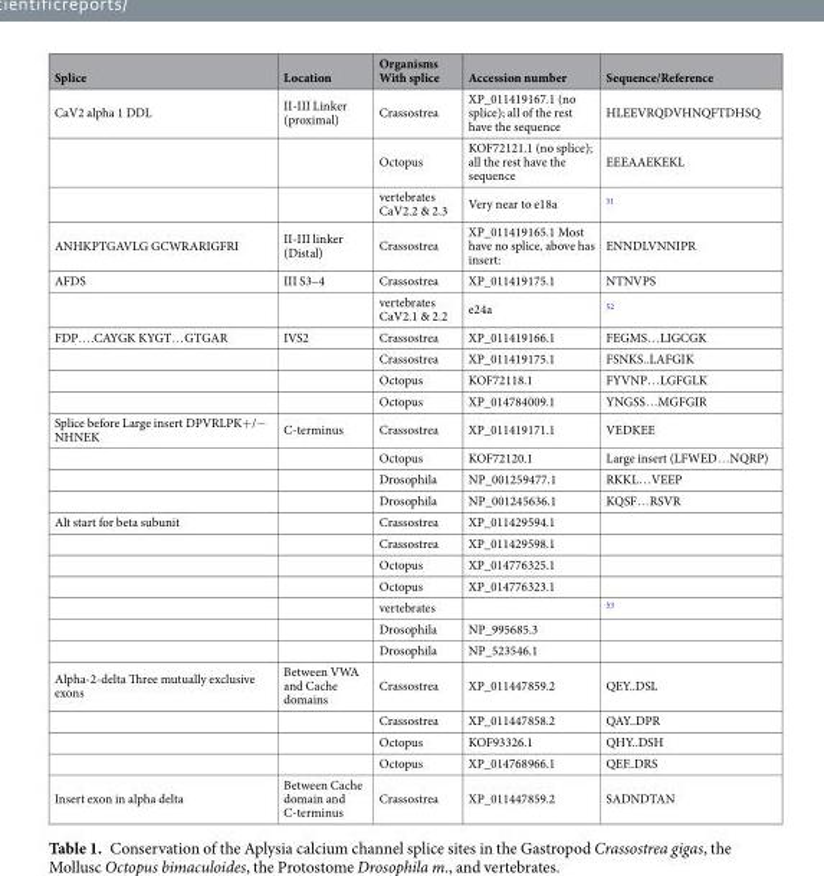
<table><thead><tr><td>Splice</td><td>Location</td><td>Organisms With splice</td><td>Accession number</td><td>Sequence/Reference</td></tr></thead><tbody><tr><td rowspan="3">CaV2 alpha 1 DDL</td><td>II-III Linker (proximal)</td><td>Crassostrea</td><td>XP_011419167.1 (no splice); all of the rest have the sequence</td><td>HLEEVRQDVHNQFTDHSQ</td></tr><tr><td></td><td>Octopus</td><td>KOF72121.1 (no splice); all the rest have the sequence</td><td>EEEAAEKEKL</td></tr><tr><td></td><td>vertebrates CaV2.2 &amp; 2.3</td><td>Very near to e18a</td><td><sup>51</sup></td></tr><tr><td>ANHKPTGAVLG GCWRARIGFRI</td><td>II-III linker (Distal)</td><td>Crassostrea</td><td>XP_011419165.1 Most have no splice, above has insert:</td><td>ENNDLVNNIPR</td></tr><tr><td rowspan="2">AFDS</td><td>III S3–4</td><td>Crassostrea</td><td>XP_011419175.1</td><td>NTNVPS</td></tr><tr><td></td><td>vertebrates CaV2.1 &amp; 2.2</td><td>e24a</td><td><sup>52</sup></td></tr><tr><td rowspan="4">FDP….CAYGK KYGT…GTGAR</td><td>IVS2</td><td>Crassostrea</td><td>XP_011419166.1</td><td>FEGMS…LIGCGK</td></tr><tr><td></td><td>Crassostrea</td><td>XP_011419175.1</td><td>FSNKS..LAFGIK</td></tr><tr><td></td><td>Octopus</td><td>KOF72118.1</td><td>FYVNP…LGFGLK</td></tr><tr><td></td><td>Octopus</td><td>XP_014784009.1</td><td>YNGSS…MGFGIR</td></tr><tr><td rowspan="4">Splice before Large insert DPVRLPK+/− NHNEK</td><td>C-terminus</td><td>Crassostrea</td><td>XP_011419171.1</td><td>VEDKEE</td></tr><tr><td></td><td>Octopus</td><td>KOF72120.1</td><td>Large insert (LFWED…NQRP)</td></tr><tr><td></td><td>Drosophila</td><td>NP_001259477.1</td><td>RKKL…VEEP</td></tr><tr><td></td><td>Drosophila</td><td>NP_001245636.1</td><td>KQSF…RSVR</td></tr><tr><td rowspan="7">Alt start for beta subunit</td><td></td><td>Crassostrea</td><td>XP_011429594.1</td><td></td></tr><tr><td></td><td>Crassostrea</td><td>XP_011429598.1</td><td></td></tr><tr><td></td><td>Octopus</td><td>XP_014776325.1</td><td></td></tr><tr><td></td><td>Octopus</td><td>XP_014776323.1</td><td></td></tr><tr><td></td><td>vertebrates</td><td></td><td><sup>53</sup></td></tr><tr><td></td><td>Drosophila</td><td>NP_995685.3</td><td></td></tr><tr><td></td><td>Drosophila</td><td>NP_523546.1</td><td></td></tr><tr><td rowspan="4">Alpha-2-delta Three mutually exclusive exons</td><td>Between VWA and Cache domains</td><td>Crassostrea</td><td>XP_011447859.2</td><td>QEY..DSL</td></tr><tr><td></td><td>Crassostrea</td><td>XP_011447858.2</td><td>QAY..DPR</td></tr><tr><td></td><td>Octopus</td><td>KOF93326.1</td><td>QHY..DSH</td></tr><tr><td></td><td>Octopus</td><td>XP_014768966.1</td><td>QEF..DRS</td></tr><tr><td>Insert exon in alpha delta</td><td>Between Cache domain and C-terminus</td><td>Crassostrea</td><td>XP_011447859.2</td><td>SADNDTAN</td></tr></tbody></table>